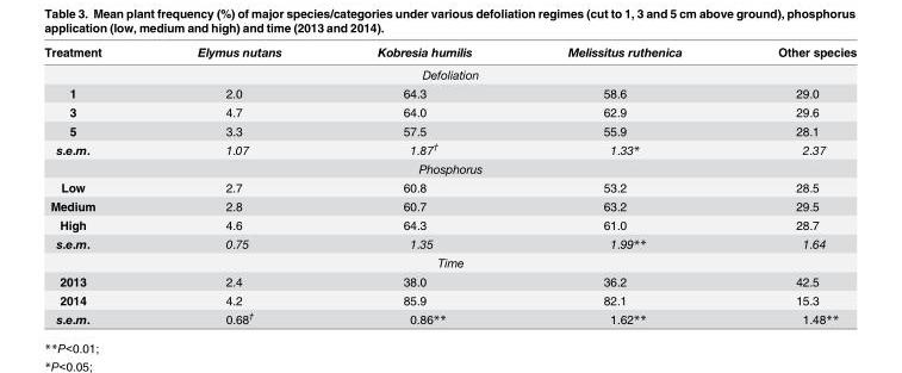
<table><thead><tr><td>Treatment</td><td>Elymus nutans</td><td>Kobresia humilis</td><td>Melissitus ruthenica</td><td>Other species</td></tr></thead><tbody><tr><td colspan="5">Defoliation</td></tr><tr><td>1</td><td>2.0</td><td>64.3</td><td>58.6</td><td>29.0</td></tr><tr><td>3</td><td>4.7</td><td>64.0</td><td>62.9</td><td>29.6</td></tr><tr><td>5</td><td>3.3</td><td>57.5</td><td>55.9</td><td>28.1</td></tr><tr><td>s.e.m.</td><td>1.07</td><td>1.87<sup>†</sup></td><td>1.33*</td><td>2.37</td></tr><tr><td colspan="5">Phosphorus</td></tr><tr><td>Low</td><td>2.7</td><td>60.8</td><td>53.2</td><td>28.5</td></tr><tr><td>Medium</td><td>2.8</td><td>60.7</td><td>63.2</td><td>29.5</td></tr><tr><td>High</td><td>4.6</td><td>64.3</td><td>61.0</td><td>28.7</td></tr><tr><td>s.e.m.</td><td>0.75</td><td>1.35</td><td>1.99**</td><td>1.64</td></tr><tr><td colspan="5">Time</td></tr><tr><td>2013</td><td>2.4</td><td>38.0</td><td>36.2</td><td>42.5</td></tr><tr><td>2014</td><td>4.2</td><td>85.9</td><td>82.1</td><td>15.3</td></tr><tr><td>s.e.m.</td><td>0.68<sup>†</sup></td><td>0.86**</td><td>1.62**</td><td>1.48**</td></tr></tbody></table>